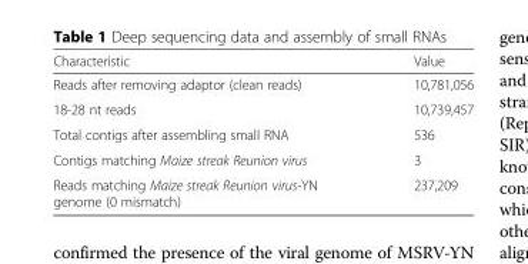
<table><thead><tr><td>Characteristic</td><td>Value</td></tr></thead><tbody><tr><td>Reads after removing adaptor (clean reads)</td><td>10,781,056</td></tr><tr><td>18-28 nt reads</td><td>10,739,457</td></tr><tr><td>Total contigs after assembling small RNA</td><td>536</td></tr><tr><td>Contigs matching Maize streak Reunion virus</td><td>3</td></tr><tr><td>Reads matching Maize streak Reunion virus-YN genome (0 mismatch)</td><td>237,209</td></tr></tbody></table>